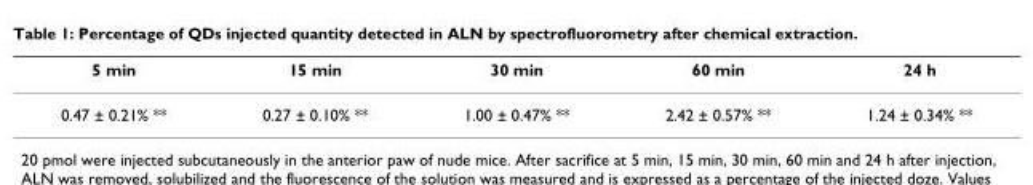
<table><thead><tr><td>5 min</td><td>15 min</td><td>30 min</td><td>60 min</td><td>24 h</td></tr></thead><tbody><tr><td>0.47 ± 0.21% **</td><td>0.27 ± 0.10% **</td><td>1.00 ± 0.47% **</td><td>2.42 ± 0.57% **</td><td>1.24 ± 0.34% **</td></tr></tbody></table>